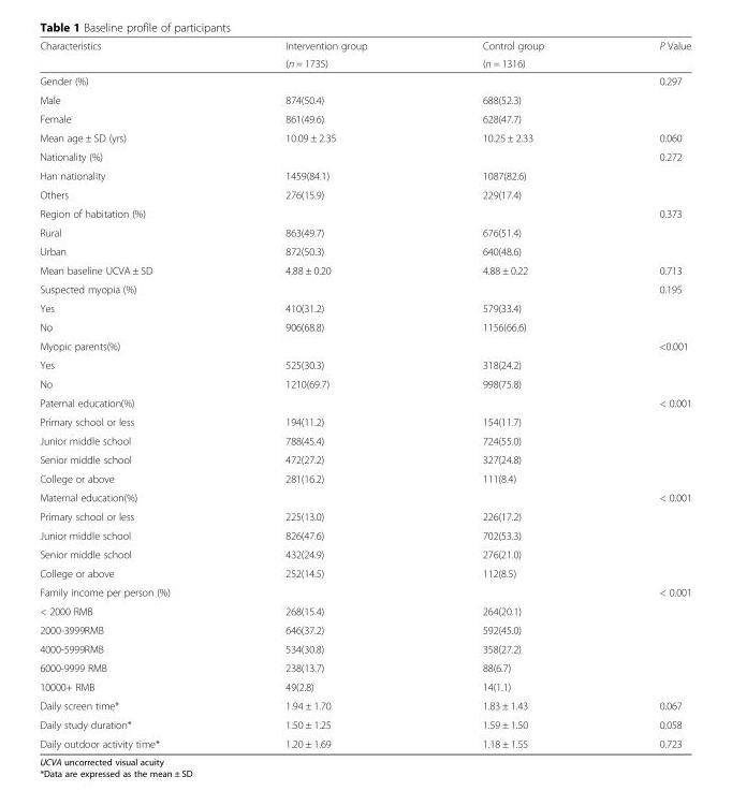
<table><thead><tr><td rowspan="2">Characteristics</td><td rowspan="2">Intervention group (n = 1735)</td><td rowspan="2">Control group (n = 1316)</td><td rowspan="2">P Value</td></tr><tr></tr></thead><tbody><tr><td>Gender (%)</td><td></td><td></td><td>0.297</td></tr><tr><td>Male</td><td>874(50.4)</td><td>688(52.3)</td><td></td></tr><tr><td>Female</td><td>861(49.6)</td><td>628(47.7)</td><td></td></tr><tr><td>Mean age ± SD (yrs)</td><td>10.09 ± 2.35</td><td>10.25 ± 2.33</td><td>0.060</td></tr><tr><td>Nationality (%)</td><td></td><td></td><td>0.272</td></tr><tr><td>Han nationality</td><td>1459(84.1)</td><td>1087(82.6)</td><td></td></tr><tr><td>Others</td><td>276(15.9)</td><td>229(17.4)</td><td></td></tr><tr><td>Region of habitation (%)</td><td></td><td></td><td>0.373</td></tr><tr><td>Rural</td><td>863(49.7)</td><td>676(51.4)</td><td></td></tr><tr><td>Urban</td><td>872(50.3)</td><td>640(48.6)</td><td></td></tr><tr><td>Mean baseline UCVA ± SD</td><td>4.88 ± 0.20</td><td>4.88 ± 0.22</td><td>0.713</td></tr><tr><td>Suspected myopia (%)</td><td></td><td></td><td>0.195</td></tr><tr><td>Yes</td><td>410(31.2)</td><td>579(33.4)</td><td></td></tr><tr><td>No</td><td>906(68.8)</td><td>1156(66.6)</td><td></td></tr><tr><td>Myopic parents(%)</td><td></td><td></td><td>&lt;0.001</td></tr><tr><td>Yes</td><td>525(30.3)</td><td>318(24.2)</td><td></td></tr><tr><td>No</td><td>1210(69.7)</td><td>998(75.8)</td><td></td></tr><tr><td>Paternal education(%)</td><td></td><td></td><td>&lt; 0.001</td></tr><tr><td>Primary school or less</td><td>194(11.2)</td><td>154(11.7)</td><td></td></tr><tr><td>Junior middle school</td><td>788(45.4)</td><td>724(55.0)</td><td></td></tr><tr><td>Senior middle school</td><td>472(27.2)</td><td>327(24.8)</td><td></td></tr><tr><td>College or above</td><td>281(16.2)</td><td>111(8.4)</td><td></td></tr><tr><td>Maternal education(%)</td><td></td><td></td><td>&lt; 0.001</td></tr><tr><td>Primary school or less</td><td>225(13.0)</td><td>226(17.2)</td><td></td></tr><tr><td>Junior middle school</td><td>826(47.6)</td><td>702(53.3)</td><td></td></tr><tr><td>Senior middle school</td><td>432(24.9)</td><td>276(21.0)</td><td></td></tr><tr><td>College or above</td><td>252(14.5)</td><td>112(8.5)</td><td></td></tr><tr><td>Family income per person (%)</td><td></td><td></td><td>&lt; 0.001</td></tr><tr><td>&lt; 2000 RMB</td><td>268(15.4)</td><td>264(20.1)</td><td></td></tr><tr><td>2000-3999RMB</td><td>646(37.2)</td><td>592(45.0)</td><td></td></tr><tr><td>4000-5999RMB</td><td>534(30.8)</td><td>358(27.2)</td><td></td></tr><tr><td>6000-9999 RMB</td><td>238(13.7)</td><td>88(6.7)</td><td></td></tr><tr><td>10000+ RMB</td><td>49(2.8)</td><td>14(1.1)</td><td></td></tr><tr><td>Daily screen time*</td><td>1.94 ± 1.70</td><td>1.83 ± 1.43</td><td>0.067</td></tr><tr><td>Daily study duration*</td><td>1.50 ± 1.25</td><td>1.59 ± 1.50</td><td>0.058</td></tr><tr><td>Daily outdoor activity time*</td><td>1.20 ± 1.69</td><td>1.18 ± 1.55</td><td>0.723</td></tr></tbody></table>